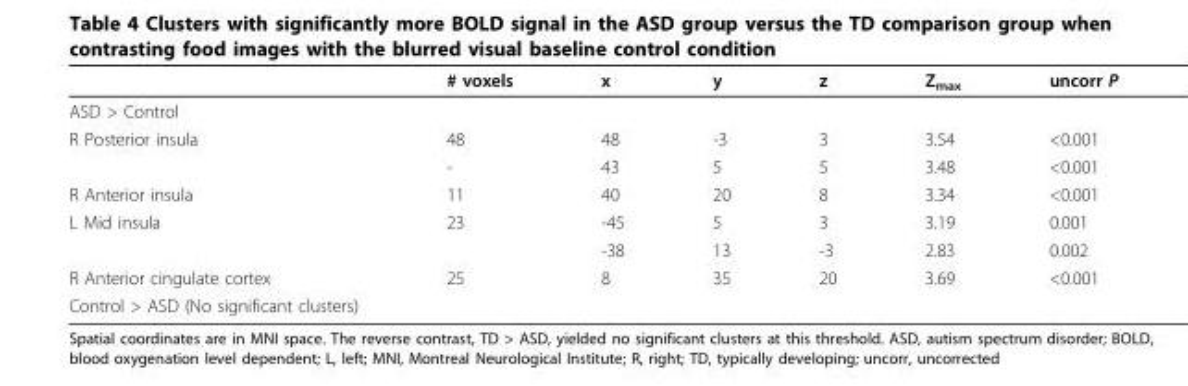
<table><thead><tr><td></td><td># voxels</td><td>x</td><td>y</td><td>z</td><td>Z<sub>max</sub></td><td>uncorr P</td></tr></thead><tbody><tr><td colspan="7">ASD &gt; Control</td></tr><tr><td rowspan="2">R Posterior insula</td><td>48</td><td>48</td><td>-3</td><td>3</td><td>3.54</td><td>&lt;0.001</td></tr><tr><td>-</td><td>43</td><td>5</td><td>5</td><td>3.48</td><td>&lt;0.001</td></tr><tr><td>R Anterior insula</td><td>11</td><td>40</td><td>20</td><td>8</td><td>3.34</td><td>&lt;0.001</td></tr><tr><td rowspan="2">L Mid insula</td><td>23</td><td>-45</td><td>5</td><td>3</td><td>3.19</td><td>0.001</td></tr><tr><td></td><td>-38</td><td>13</td><td>-3</td><td>2.83</td><td>0.002</td></tr><tr><td>R Anterior cingulate cortex</td><td>25</td><td>8</td><td>35</td><td>20</td><td>3.69</td><td>&lt;0.001</td></tr><tr><td>Control &gt; ASD (No significant clusters)</td><td></td><td></td><td></td><td></td><td></td><td></td></tr></tbody></table>